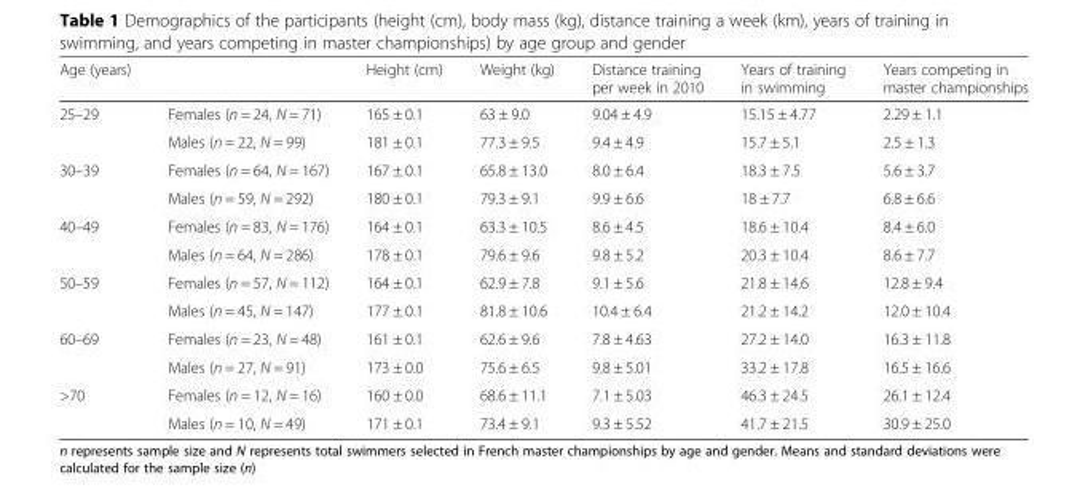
<table><thead><tr><td>Age (years)</td><td></td><td>Height (cm)</td><td>Weight (kg)</td><td>Distance training per week in 2010</td><td>Years of training in swimming</td><td>Years competing in master championships</td></tr></thead><tbody><tr><td rowspan="2">25–29</td><td>Females (n = 24, N = 71)</td><td>165 ± 0.1</td><td>63 ± 9.0</td><td>9.04 ± 4.9</td><td>15.15 ± 4.77</td><td>2.29 ± 1.1</td></tr><tr><td>Males (n = 22, N = 99)</td><td>181 ± 0.1</td><td>77.3 ± 9.5</td><td>9.4 ± 4.9</td><td>15.7 ± 5.1</td><td>2.5 ± 1.3</td></tr><tr><td rowspan="2">30–39</td><td>Females (n = 64, N = 167)</td><td>167 ± 0.1</td><td>65.8 ± 13.0</td><td>8.0 ± 6.4</td><td>18.3 ± 7.5</td><td>5.6 ± 3.7</td></tr><tr><td>Males (n = 59, N = 292)</td><td>180 ± 0.1</td><td>79.3 ± 9.1</td><td>9.9 ± 6.6</td><td>18 ± 7.7</td><td>6.8 ± 6.6</td></tr><tr><td rowspan="2">40–49</td><td>Females (n = 83, N = 176)</td><td>164 ± 0.1</td><td>63.3 ± 10.5</td><td>8.6 ± 4.5</td><td>18.6 ± 10.4</td><td>8.4 ± 6.0</td></tr><tr><td>Males (n = 64, N = 286)</td><td>178 ± 0.1</td><td>79.6 ± 9.6</td><td>9.8 ± 5.2</td><td>20.3 ± 10.4</td><td>8.6 ± 7.7</td></tr><tr><td rowspan="2">50–59</td><td>Females (n = 57, N = 112)</td><td>164 ± 0.1</td><td>62.9 ± 7.8</td><td>9.1 ± 5.6</td><td>21.8 ± 14.6</td><td>12.8 ± 9.4</td></tr><tr><td>Males (n = 45, N = 147)</td><td>177 ± 0.1</td><td>81.8 ± 10.6</td><td>10.4 ± 6.4</td><td>21.2 ± 14.2</td><td>12.0 ± 10.4</td></tr><tr><td rowspan="2">60–69</td><td>Females (n = 23, N = 48)</td><td>161 ± 0.1</td><td>62.6 ± 9.6</td><td>7.8 ± 4.63</td><td>27.2 ± 14.0</td><td>16.3 ± 11.8</td></tr><tr><td>Males (n = 27, N = 91)</td><td>173 ± 0.0</td><td>75.6 ± 6.5</td><td>9.8 ± 5.01</td><td>33.2 ± 17.8</td><td>16.5 ± 16.6</td></tr><tr><td rowspan="2">&gt;70</td><td>Females (n = 12, N = 16)</td><td>160 ± 0.0</td><td>68.6 ± 11.1</td><td>7.1 ± 5.03</td><td>46.3 ± 24.5</td><td>26.1 ± 12.4</td></tr><tr><td>Males (n = 10, N = 49)</td><td>171 ± 0.1</td><td>73.4 ± 9.1</td><td>9.3 ± 5.52</td><td>41.7 ± 21.5</td><td>30.9 ± 25.0</td></tr></tbody></table>